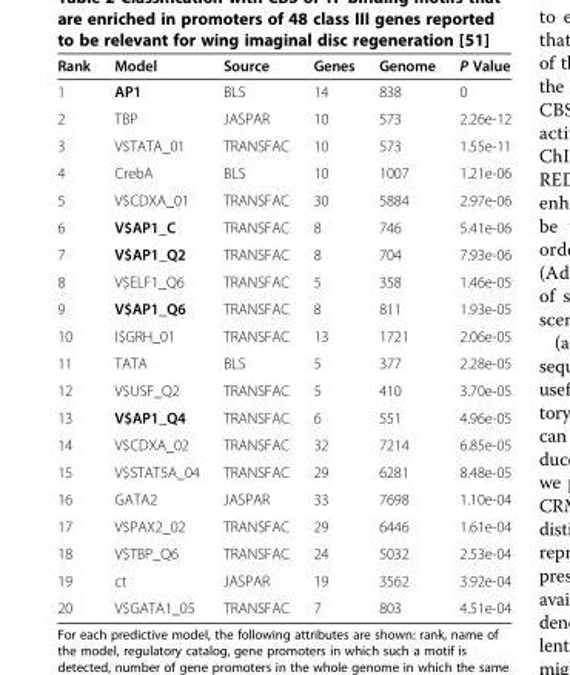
<table><thead><tr><td>Rank</td><td>Model</td><td>Source</td><td>Genes</td><td>Genome</td><td>P Value</td></tr></thead><tbody><tr><td>1</td><td>AP1</td><td>BLS</td><td>14</td><td>838</td><td>0</td></tr><tr><td>2</td><td>TBP</td><td>JASPAR</td><td>10</td><td>573</td><td>2.26e-12</td></tr><tr><td>3</td><td>V$TATA_01</td><td>TRANSFAC</td><td>10</td><td>573</td><td>1.55e-11</td></tr><tr><td>4</td><td>CrebA</td><td>BLS</td><td>10</td><td>1007</td><td>1.21e-06</td></tr><tr><td>5</td><td>V$CDXA_01</td><td>TRANSFAC</td><td>30</td><td>5884</td><td>2.97e-06</td></tr><tr><td>6</td><td>V$AP1_C</td><td>TRANSFAC</td><td>8</td><td>746</td><td>5.41e-06</td></tr><tr><td>7</td><td>V$AP1_Q2</td><td>TRANSFAC</td><td>8</td><td>704</td><td>7.93e-06</td></tr><tr><td>8</td><td>V$ELF1_Q6</td><td>TRANSFAC</td><td>5</td><td>358</td><td>1.46e-05</td></tr><tr><td>9</td><td>V$AP1_Q6</td><td>TRANSFAC</td><td>8</td><td>811</td><td>1.93e-05</td></tr><tr><td>10</td><td>I$GRH_01</td><td>TRANSFAC</td><td>13</td><td>1721</td><td>2.06e-05</td></tr><tr><td>11</td><td>TATA</td><td>BLS</td><td>5</td><td>377</td><td>2.28e-05</td></tr><tr><td>12</td><td>V$USF_Q2</td><td>TRANSFAC</td><td>5</td><td>410</td><td>3.70e-05</td></tr><tr><td>13</td><td>V$AP1_Q4</td><td>TRANSFAC</td><td>6</td><td>551</td><td>4.96e-05</td></tr><tr><td>14</td><td>V$CDXA_02</td><td>TRANSFAC</td><td>32</td><td>7214</td><td>6.85e-05</td></tr><tr><td>15</td><td>V$STAT5A_04</td><td>TRANSFAC</td><td>29</td><td>6281</td><td>8.48e-05</td></tr><tr><td>16</td><td>GATA2</td><td>JASPAR</td><td>33</td><td>7698</td><td>1.10e-04</td></tr><tr><td>17</td><td>V$PAX2_02</td><td>TRANSFAC</td><td>29</td><td>6446</td><td>1.61e-04</td></tr><tr><td>18</td><td>V$TBP_Q6</td><td>TRANSFAC</td><td>24</td><td>5032</td><td>2.53e-04</td></tr><tr><td>19</td><td>ct</td><td>JASPAR</td><td>19</td><td>3562</td><td>3.92e-04</td></tr><tr><td>20</td><td>V$GATA1_05</td><td>TRANSFAC</td><td>7</td><td>803</td><td>4.51e-04</td></tr></tbody></table>